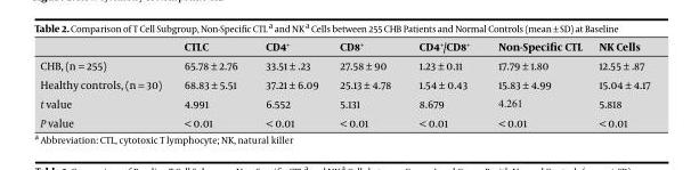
<table><thead><tr><td></td><td>CTLC</td><td>CD4<sup>+</sup></td><td>CD8<sup>+</sup></td><td>CD4<sup>+</sup>/CD8<sup>+</sup></td><td>Non-Specific CTL</td><td>NK Cells</td></tr></thead><tbody><tr><td>CHB, (n = 255)</td><td>65.78 ± 2.76</td><td>33.51 ± .23</td><td>27.58 ± 90</td><td>1.23 ± 0.11</td><td>17.79 ± 1.80</td><td>12.55 ± .87</td></tr><tr><td>Healthy controls, (n = 30)</td><td>68.83 ± 5.51</td><td>37.21 ± 6.09</td><td>25.13 ± 4.78</td><td>1.54 ± 0.43</td><td>15.83 ± 4.99</td><td>15.04 ± 4.17</td></tr><tr><td>t value</td><td>4.991</td><td>6.552</td><td>5.131</td><td>8.679</td><td>4.261</td><td>5.818</td></tr><tr><td>P value</td><td>&lt; 0.01</td><td>&lt; 0.01</td><td>&lt; 0.01</td><td>&lt; 0.01</td><td>&lt; 0.01</td><td>&lt; 0.01</td></tr></tbody></table>